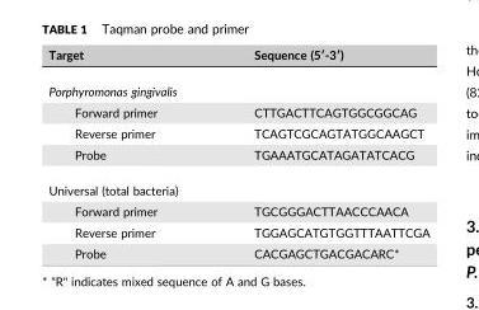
<table><thead><tr><td>Target</td><td>Sequence (5′‐3′)</td></tr></thead><tbody><tr><td colspan="2">Porphyromonas gingivalis</td></tr><tr><td>Forward primer</td><td>CTTGACTTCAGTGGCGGCAG</td></tr><tr><td>Reverse primer</td><td>TCAGTCGCAGTATGGCAAGCT</td></tr><tr><td>Probe</td><td>TGAAATGCATAGATATCACG</td></tr><tr><td colspan="2">Universal (total bacteria)</td></tr><tr><td>Forward primer</td><td>TGCGGGACTTAACCCAACA</td></tr><tr><td>Reverse primer</td><td>TGGAGCATGTGGTTTAATTCGA</td></tr><tr><td>Probe</td><td>CACGAGCTGACGACARC*</td></tr></tbody></table>